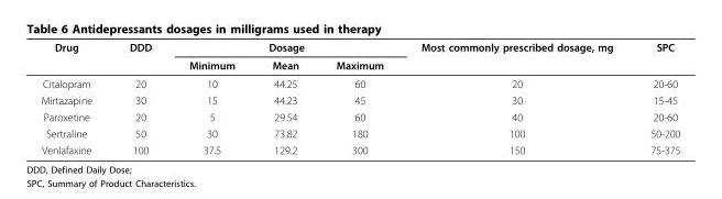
<table><thead><tr><td rowspan="2">Drug</td><td rowspan="2">DDD</td><td colspan="3">Dosage</td><td rowspan="2">Most commonly prescribed dosage, mg</td><td rowspan="2">SPC</td></tr><tr><td>Minimum</td><td>Mean</td><td>Maximum</td></tr></thead><tbody><tr><td>Citalopram</td><td>20</td><td>10</td><td>44.25</td><td>60</td><td>20</td><td>20-60</td></tr><tr><td>Mirtazapine</td><td>30</td><td>15</td><td>44.23</td><td>45</td><td>30</td><td>15-45</td></tr><tr><td>Paroxetine</td><td>20</td><td>5</td><td>29.54</td><td>60</td><td>40</td><td>20-60</td></tr><tr><td>Sertraline</td><td>50</td><td>30</td><td>73.82</td><td>180</td><td>100</td><td>50-200</td></tr><tr><td>Venlafaxine</td><td>100</td><td>37.5</td><td>129.2</td><td>300</td><td>150</td><td>75-375</td></tr></tbody></table>